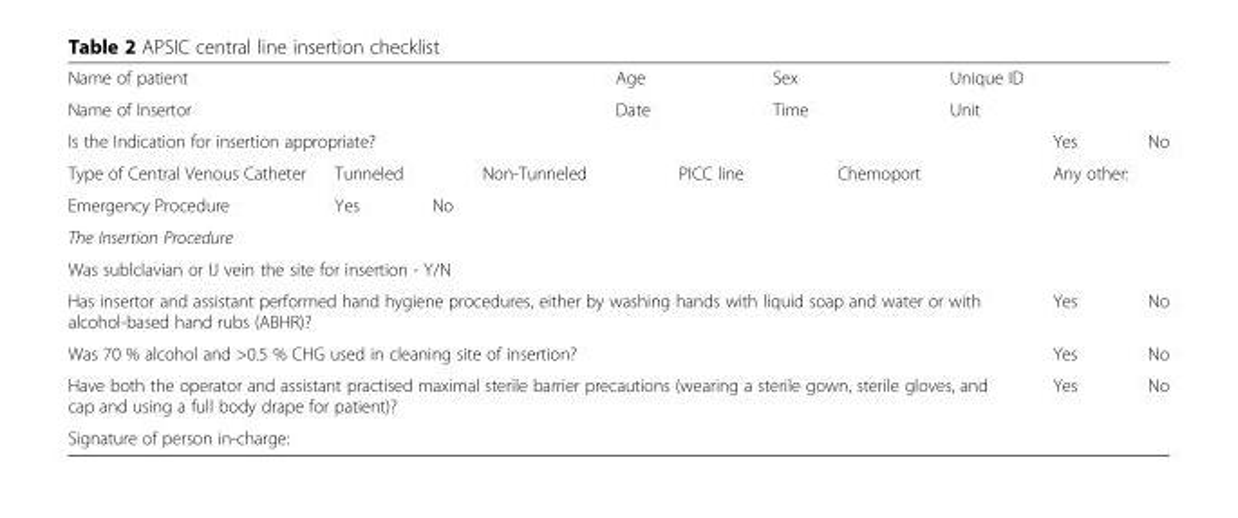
<table><tbody><tr><td>Name of patient</td><td colspan="3"></td><td>Age</td><td></td><td>Sex</td><td></td><td>Unique ID</td><td colspan="2"></td></tr><tr><td>Name of Insertor</td><td colspan="3"></td><td>Date</td><td></td><td>Time</td><td></td><td>Unit</td><td colspan="2"></td></tr><tr><td colspan="9">Is the Indication for insertion appropriate?</td><td>Yes</td><td>No</td></tr><tr><td>Type of Central Venous Catheter</td><td>Tunneled</td><td></td><td>Non-Tunneled</td><td></td><td>PICC line</td><td></td><td>Chemoport</td><td></td><td>Any other:</td><td></td></tr><tr><td>Emergency Procedure</td><td>Yes</td><td>No</td><td></td><td colspan="7"></td></tr><tr><td colspan="11">The Insertion Procedure</td></tr><tr><td colspan="11">Was sublclavian or IJ vein the site for insertion - Y/N</td></tr><tr><td colspan="9">Has insertor and assistant performed hand hygiene procedures, either by washing hands with liquid soap and water or with alcohol-based hand rubs (ABHR)?</td><td>Yes</td><td>No</td></tr><tr><td colspan="9">Was 70 % alcohol and &gt;0.5 % CHG used in cleaning site of insertion?</td><td>Yes</td><td>No</td></tr><tr><td colspan="9">Have both the operator and assistant practised maximal sterile barrier precautions (wearing a sterile gown, sterile gloves, and cap and using a full body drape for patient)?</td><td>Yes</td><td>No</td></tr><tr><td colspan="2">Signature of person in-charge:</td><td colspan="9"></td></tr></tbody></table>